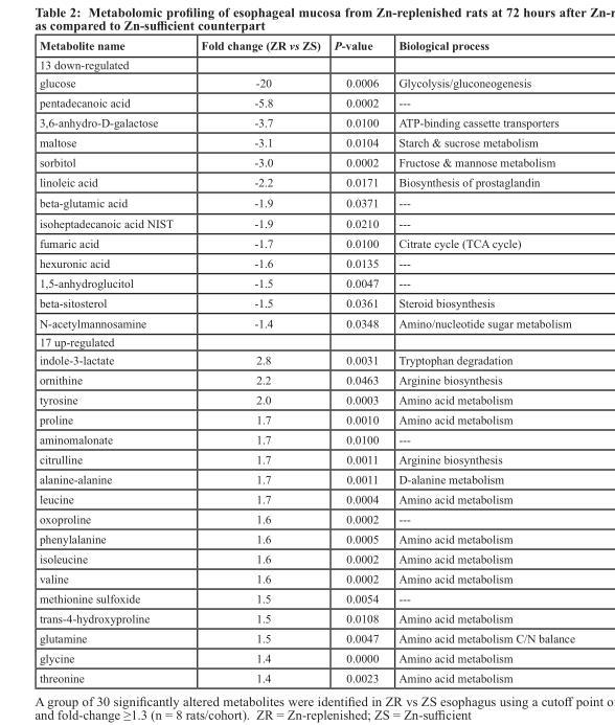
<table><thead><tr><td>Metabolite name</td><td>Fold change (ZR vs ZS)</td><td>P-value</td><td>Biological process</td></tr></thead><tbody><tr><td colspan="4">13 down-regulated</td></tr><tr><td>glucose</td><td>-20</td><td>0.0006</td><td>Glycolysis/gluconeogenesis</td></tr><tr><td>pentadecanoic acid</td><td>-5.8</td><td>0.0002</td><td>---</td></tr><tr><td>3,6-anhydro-D-galactose</td><td>-3.7</td><td>0.0100</td><td>ATP-binding cassette transporters</td></tr><tr><td>maltose</td><td>-3.1</td><td>0.0104</td><td>Starch &amp; sucrose metabolism</td></tr><tr><td>sorbitol</td><td>-3.0</td><td>0.0002</td><td>Fructose &amp; mannose metabolism</td></tr><tr><td>linoleic acid</td><td>-2.2</td><td>0.0171</td><td>Biosynthesis of prostaglandin</td></tr><tr><td>beta-glutamic acid</td><td>-1.9</td><td>0.0371</td><td>---</td></tr><tr><td>isoheptadecanoic acid NIST</td><td>-1.9</td><td>0.0210</td><td>---</td></tr><tr><td>fumaric acid</td><td>-1.7</td><td>0.0100</td><td>Citrate cycle (TCA cycle)</td></tr><tr><td>hexuronic acid</td><td>-1.6</td><td>0.0135</td><td>---</td></tr><tr><td>1,5-anhydroglucitol</td><td>-1.5</td><td>0.0047</td><td>---</td></tr><tr><td>beta-sitosterol</td><td>-1.5</td><td>0.0361</td><td>Steroid biosynthesis</td></tr><tr><td>N-acetylmannosamine</td><td>-1.4</td><td>0.0348</td><td>Amino/nucleotide sugar metabolism</td></tr><tr><td colspan="4">17 up-regulated</td></tr><tr><td>indole-3-lactate</td><td>2.8</td><td>0.0031</td><td>Tryptophan degradation</td></tr><tr><td>ornithine</td><td>2.2</td><td>0.0463</td><td>Arginine biosynthesis</td></tr><tr><td>tyrosine</td><td>2.0</td><td>0.0003</td><td>Amino acid metabolism</td></tr><tr><td>proline</td><td>1.7</td><td>0.0010</td><td>Amino acid metabolism</td></tr><tr><td>aminomalonate</td><td>1.7</td><td>0.0100</td><td>---</td></tr><tr><td>citrulline</td><td>1.7</td><td>0.0011</td><td>Arginine biosynthesis</td></tr><tr><td>alanine-alanine</td><td>1.7</td><td>0.0011</td><td>D-alanine metabolism</td></tr><tr><td>leucine</td><td>1.7</td><td>0.0004</td><td>Amino acid metabolism</td></tr><tr><td>oxoproline</td><td>1.6</td><td>0.0002</td><td>---</td></tr><tr><td>phenylalanine</td><td>1.6</td><td>0.0005</td><td>Amino acid metabolism</td></tr><tr><td>isoleucine</td><td>1.6</td><td>0.0002</td><td>Amino acid metabolism</td></tr><tr><td>valine</td><td>1.6</td><td>0.0002</td><td>Amino acid metabolism</td></tr><tr><td>methionine sulfoxide</td><td>1.5</td><td>0.0054</td><td>---</td></tr><tr><td>trans-4-hydroxyproline</td><td>1.5</td><td>0.0108</td><td>Amino acid metabolism</td></tr><tr><td>glutamine</td><td>1.5</td><td>0.0047</td><td>Amino acid metabolism C/N balance</td></tr><tr><td>glycine</td><td>1.4</td><td>0.0000</td><td>Amino acid metabolism</td></tr><tr><td>threonine</td><td>1.4</td><td>0.0023</td><td>Amino acid metabolism</td></tr></tbody></table>